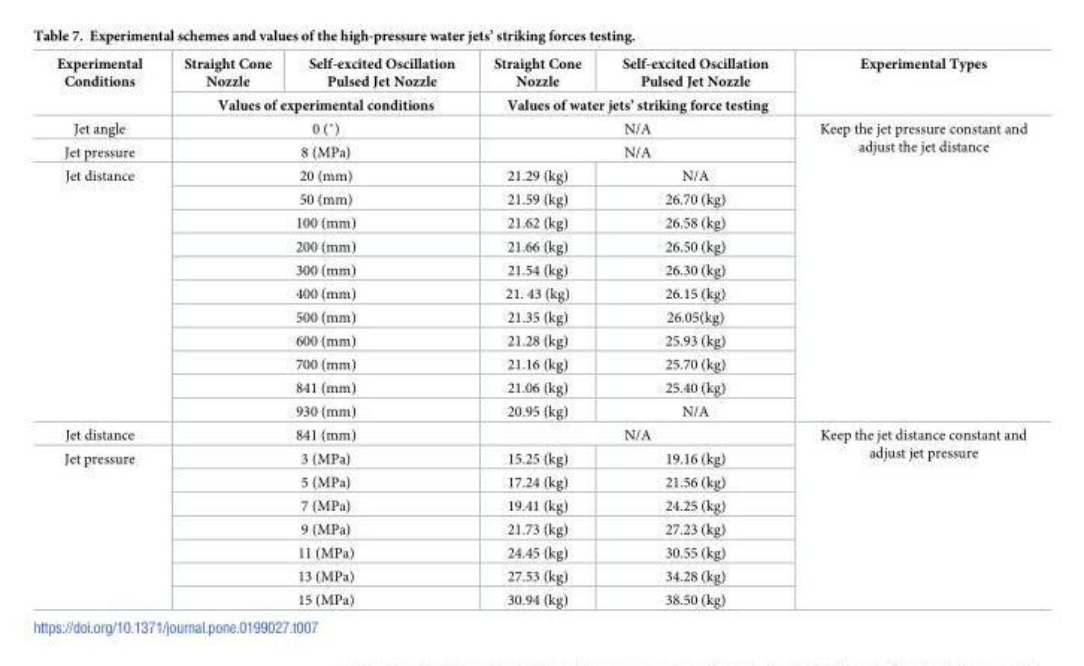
<table><thead><tr><td rowspan="2">Experimental Conditions</td><td>Straight Cone Nozzle</td><td>Self-excited Oscillation Pulsed Jet Nozzle</td><td>Straight Cone Nozzle</td><td>Self-excited Oscillation Pulsed Jet Nozzle</td><td rowspan="2">Experimental Types</td></tr><tr><td colspan="2">Values of experimental conditions</td><td colspan="2">Values of water jets’ striking force testing</td></tr></thead><tbody><tr><td>Jet angle</td><td colspan="2">0 (˚)</td><td colspan="2">N/A</td><td rowspan="13">Keep the jet pressure constant and adjust the jet distance</td></tr><tr><td>Jet pressure</td><td colspan="2">8 (MPa)</td><td colspan="2">N/A</td></tr><tr><td rowspan="11">Jet distance</td><td colspan="2">20 (mm)</td><td>21.29 (kg)</td><td>N/A</td></tr><tr><td colspan="2">50 (mm)</td><td>21.59 (kg)</td><td>26.70 (kg)</td></tr><tr><td colspan="2">100 (mm)</td><td>21.62 (kg)</td><td>26.58 (kg)</td></tr><tr><td colspan="2">200 (mm)</td><td>21.66 (kg)</td><td>26.50 (kg)</td></tr><tr><td colspan="2">300 (mm)</td><td>21.54 (kg)</td><td>26.30 (kg)</td></tr><tr><td colspan="2">400 (mm)</td><td>21. 43 (kg)</td><td>26.15 (kg)</td></tr><tr><td colspan="2">500 (mm)</td><td>21.35 (kg)</td><td>26.05(kg)</td></tr><tr><td colspan="2">600 (mm)</td><td>21.28 (kg)</td><td>25.93 (kg)</td></tr><tr><td colspan="2">700 (mm)</td><td>21.16 (kg)</td><td>25.70 (kg)</td></tr><tr><td colspan="2">841 (mm)</td><td>21.06 (kg)</td><td>25.40 (kg)</td></tr><tr><td colspan="2">930 (mm)</td><td>20.95 (kg)</td><td>N/A</td></tr><tr><td>Jet distance</td><td colspan="2">841 (mm)</td><td colspan="2">N/A</td><td rowspan="8">Keep the jet distance constant and adjust jet pressure</td></tr><tr><td rowspan="7">Jet pressure</td><td colspan="2">3 (MPa)</td><td>15.25 (kg)</td><td>19.16 (kg)</td></tr><tr><td colspan="2">5 (MPa)</td><td>17.24 (kg)</td><td>21.56 (kg)</td></tr><tr><td colspan="2">7 (MPa)</td><td>19.41 (kg)</td><td>24.25 (kg)</td></tr><tr><td colspan="2">9 (MPa)</td><td>21.73 (kg)</td><td>27.23 (kg)</td></tr><tr><td colspan="2">11 (MPa)</td><td>24.45 (kg)</td><td>30.55 (kg)</td></tr><tr><td colspan="2">13 (MPa)</td><td>27.53 (kg)</td><td>34.28 (kg)</td></tr><tr><td colspan="2">15 (MPa)</td><td>30.94 (kg)</td><td>38.50 (kg)</td></tr></tbody></table>